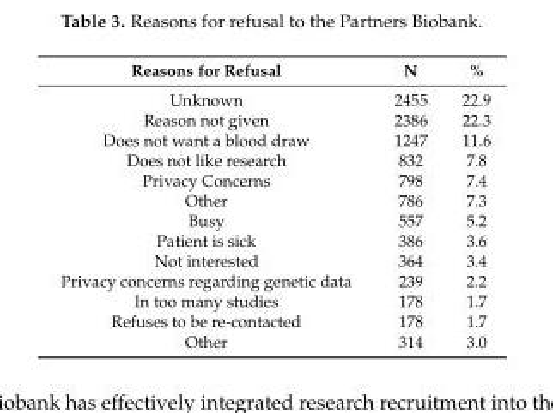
<table><thead><tr><td>Reasons for Refusal</td><td>N</td><td>%</td></tr></thead><tbody><tr><td>Unknown</td><td>2455</td><td>22.9</td></tr><tr><td>Reason not given</td><td>2386</td><td>22.3</td></tr><tr><td>Does not want a blood draw</td><td>1247</td><td>11.6</td></tr><tr><td>Does not like research</td><td>832</td><td>7.8</td></tr><tr><td>Privacy Concerns</td><td>798</td><td>7.4</td></tr><tr><td>Other</td><td>786</td><td>7.3</td></tr><tr><td>Busy</td><td>557</td><td>5.2</td></tr><tr><td>Patient is sick</td><td>386</td><td>3.6</td></tr><tr><td>Not interested</td><td>364</td><td>3.4</td></tr><tr><td>Privacy concerns regarding genetic data</td><td>239</td><td>2.2</td></tr><tr><td>In too many studies</td><td>178</td><td>1.7</td></tr><tr><td>Refuses to be re-contacted</td><td>178</td><td>1.7</td></tr><tr><td>Other</td><td>314</td><td>3.0</td></tr></tbody></table>